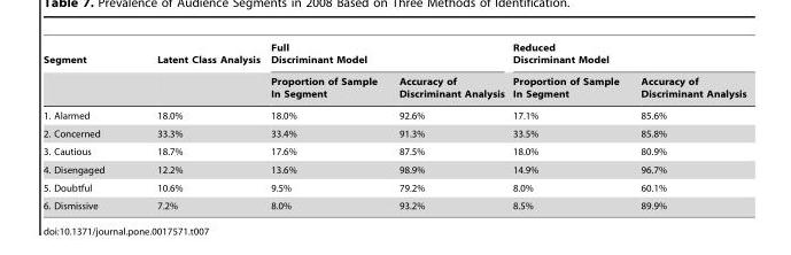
<table><thead><tr><td rowspan="2">Segment</td><td rowspan="2">Latent Class Analysis</td><td colspan="2">Full Discriminant Model</td><td colspan="2">Reduced Discriminant Model</td></tr><tr><td>Proportion of Sample In Segment</td><td>Accuracy of Discriminant Analysis</td><td>Proportion of Sample In Segment</td><td>Accuracy of Discriminant Analysis</td></tr></thead><tbody><tr><td>1. Alarmed</td><td>18.0%</td><td>18.0%</td><td>92.6%</td><td>17.1%</td><td>85.6%</td></tr><tr><td>2. Concerned</td><td>33.3%</td><td>33.4%</td><td>91.3%</td><td>33.5%</td><td>85.8%</td></tr><tr><td>3. Cautious</td><td>18.7%</td><td>17.6%</td><td>87.5%</td><td>18.0%</td><td>80.9%</td></tr><tr><td>4. Disengaged</td><td>12.2%</td><td>13.6%</td><td>98.9%</td><td>14.9%</td><td>96.7%</td></tr><tr><td>5. Doubtful</td><td>10.6%</td><td>9.5%</td><td>79.2%</td><td>8.0%</td><td>60.1%</td></tr><tr><td>6. Dismissive</td><td>7.2%</td><td>8.0%</td><td>93.2%</td><td>8.5%</td><td>89.9%</td></tr></tbody></table>